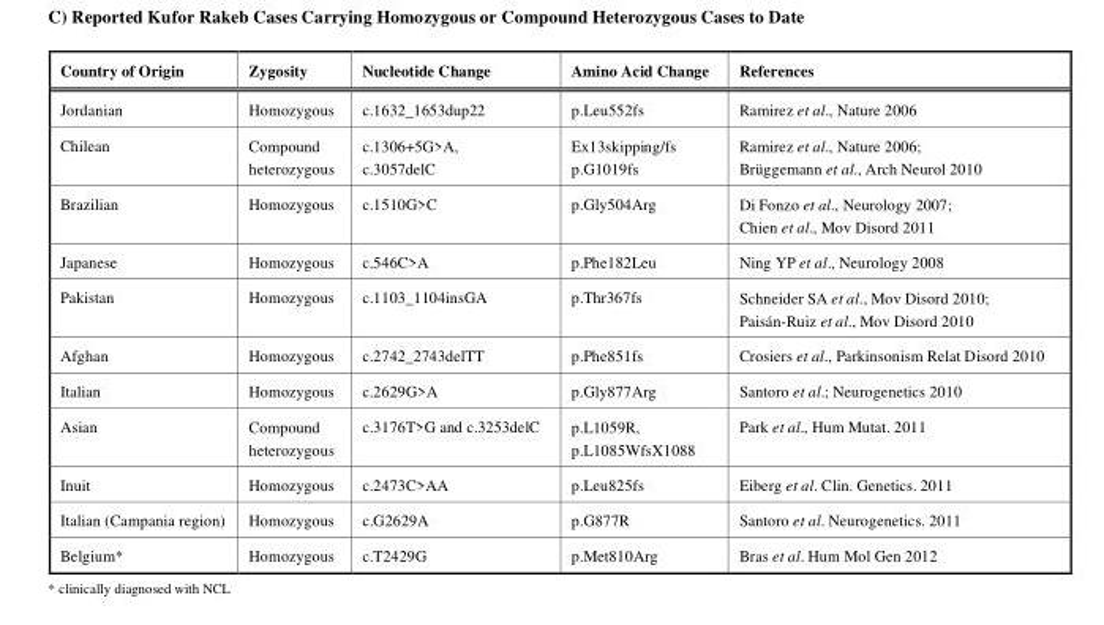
<table><thead><tr><td>Country of Origin</td><td>Zygosity</td><td>Nucleotide Change</td><td>Amino Acid Change</td><td>References</td></tr></thead><tbody><tr><td>Jordanian</td><td>Homozygous</td><td>c.1632_1653dup22</td><td>p.Leu552fs</td><td>Ramirez et al., Nature 2006</td></tr><tr><td>Chilean</td><td>Compound heterozygous</td><td>c.1306+5G&gt;A, c.3057delC</td><td>Ex13skipping/fs p.G1019fs</td><td>Ramirez et al., Nature 2006; Brüggemann et al., Arch Neurol 2010</td></tr><tr><td>Brazilian</td><td>Homozygous</td><td>c.1510G&gt;C</td><td>p.Gly504Arg</td><td>Di Fonzo et al., Neurology 2007; Chien et al., Mov Disord 2011</td></tr><tr><td>Japanese</td><td>Homozygous</td><td>c.546C&gt;A</td><td>p.Phe182Leu</td><td>Ning YP et al., Neurology 2008</td></tr><tr><td>Pakistan</td><td>Homozygous</td><td>c.1103_1104insGA</td><td>p.Thr367fs</td><td>Schneider SA et al., Mov Disord 2010; Paisán-Ruiz et al., Mov Disord 2010</td></tr><tr><td>Afghan</td><td>Homozygous</td><td>c.2742_2743delTT</td><td>p.Phe851fs</td><td>Crosiers et al., Parkinsonism Relat Disord 2010</td></tr><tr><td>Italian</td><td>Homozygous</td><td>c.2629G&gt;A</td><td>p.Gly877Arg</td><td>Santoro et al.; Neurogenetics 2010</td></tr><tr><td>Asian</td><td>Compound heterozygous</td><td>c.3176T&gt;G and c.3253delC</td><td>p.L1059R, p.L1085WfsX1088</td><td>Park et al., Hum Mutat. 2011</td></tr><tr><td>Inuit</td><td>Homozygous</td><td>c.2473C&gt;AA</td><td>p.Leu825fs</td><td>Eiberg et al. Clin. Genetics. 2011</td></tr><tr><td>Italian (Campania region)</td><td>Homozygous</td><td>c.G2629A</td><td>p.G877R</td><td>Santoro et al. Neurogenetics. 2011</td></tr><tr><td>Belgium*</td><td>Homozygous</td><td>c.T2429G</td><td>p.Met810Arg</td><td>Bras et al. Hum Mol Gen 2012</td></tr></tbody></table>